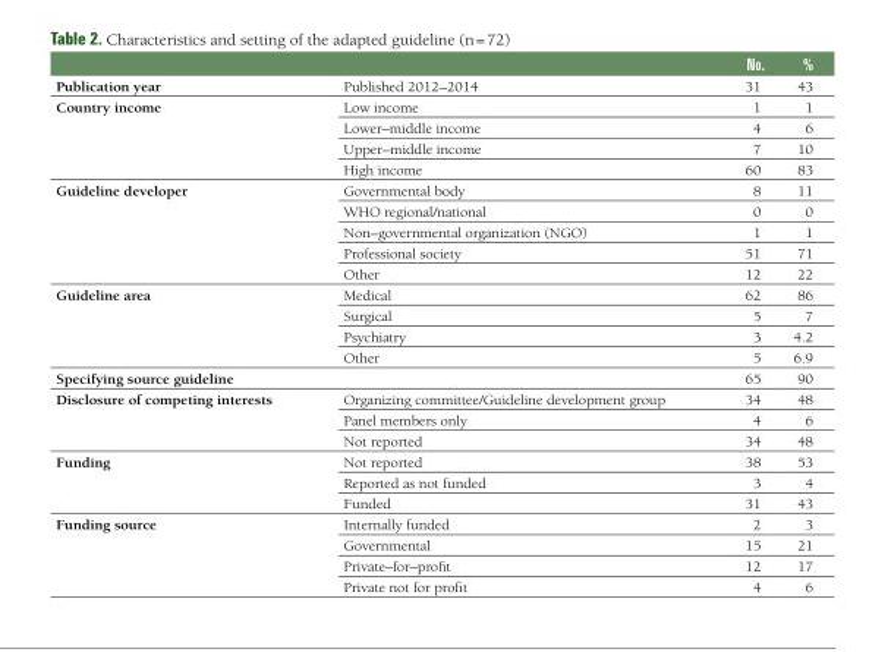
<table><thead><tr><td></td><td></td><td>No.</td><td>%</td></tr></thead><tbody><tr><td>Publication year</td><td>Published 2012–2014</td><td>31</td><td>43</td></tr><tr><td rowspan="4">Country income</td><td>Low income</td><td>1</td><td>1</td></tr><tr><td>Lower–middle income</td><td>4</td><td>6</td></tr><tr><td>Upper–middle income</td><td>7</td><td>10</td></tr><tr><td>High income</td><td>60</td><td>83</td></tr><tr><td rowspan="5">Guideline developer</td><td>Governmental body</td><td>8</td><td>11</td></tr><tr><td>WHO regional/national</td><td>0</td><td>0</td></tr><tr><td>Non–governmental organization (NGO)</td><td>1</td><td>1</td></tr><tr><td>Professional society</td><td>51</td><td>71</td></tr><tr><td>Other</td><td>12</td><td>22</td></tr><tr><td rowspan="4">Guideline area</td><td>Medical</td><td>62</td><td>86</td></tr><tr><td>Surgical</td><td>5</td><td>7</td></tr><tr><td>Psychiatry</td><td>3</td><td>4.2</td></tr><tr><td>Other</td><td>5</td><td>6.9</td></tr><tr><td>Specifying source guideline</td><td></td><td>65</td><td>90</td></tr><tr><td rowspan="3">Disclosure of competing interests</td><td>Organizing committee/Guideline development group</td><td>34</td><td>48</td></tr><tr><td>Panel members only</td><td>4</td><td>6</td></tr><tr><td>Not reported</td><td>34</td><td>48</td></tr><tr><td rowspan="3">Funding</td><td>Not reported</td><td>38</td><td>53</td></tr><tr><td>Reported as not funded</td><td>3</td><td>4</td></tr><tr><td>Funded</td><td>31</td><td>43</td></tr><tr><td rowspan="4">Funding source</td><td>Internally funded</td><td>2</td><td>3</td></tr><tr><td>Governmental</td><td>15</td><td>21</td></tr><tr><td>Private–for–profit</td><td>12</td><td>17</td></tr><tr><td>Private not for profit</td><td>4</td><td>6</td></tr></tbody></table>